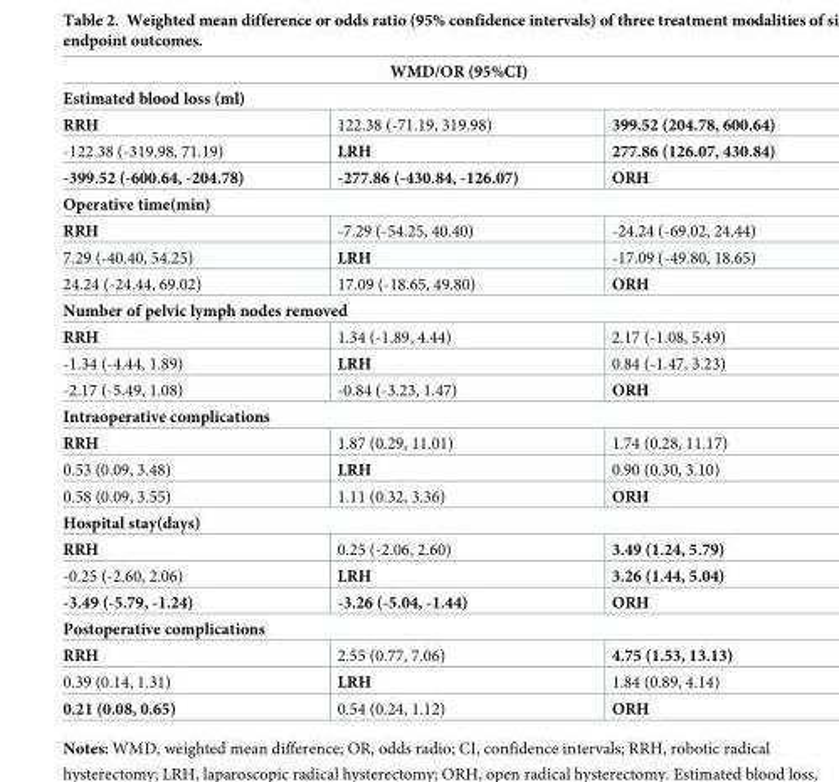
<table><thead><tr><td rowspan="2" colspan="3">WMD/OR (95%CI) Estimated blood loss (ml)</td></tr><tr></tr><tr><td>RRH</td><td>122.38 (-71.19, 319.98)</td><td>399.52 (204.78, 600.64)</td></tr></thead><tbody><tr><td>-122.38 (-319.98, 71.19)</td><td>LRH</td><td>277.86 (126.07, 430.84)</td></tr><tr><td>-399.52 (-600.64, -204.78)</td><td>-277.86 (-430.84, -126.07)</td><td>ORH</td></tr><tr><td colspan="3">Operative time(min)</td></tr><tr><td>RRH</td><td>-7.29 (-54.25, 40.40)</td><td>-24.24 (-69.02, 24.44)</td></tr><tr><td>7.29 (-40.40, 54.25)</td><td>LRH</td><td>-17.09 (-49.80, 18.65)</td></tr><tr><td>24.24 (-24.44, 69.02)</td><td>17.09 (-18.65, 49.80)</td><td>ORH</td></tr><tr><td colspan="3">Number of pelvic lymph nodes removed</td></tr><tr><td>RRH</td><td>1.34 (-1.89, 4.44)</td><td>2.17 (-1.08, 5.49)</td></tr><tr><td>-1.34 (-4.44, 1.89)</td><td>LRH</td><td>0.84 (-1.47, 3.23)</td></tr><tr><td>-2.17 (-5.49, 1.08)</td><td>-0.84 (-3.23, 1.47)</td><td>ORH</td></tr><tr><td colspan="3">Intraoperative complications</td></tr><tr><td>RRH</td><td>1.87 (0.29, 11.01)</td><td>1.74 (0.28, 11.17)</td></tr><tr><td>0.53 (0.09, 3.48)</td><td>LRH</td><td>0.90 (0.30, 3.10)</td></tr><tr><td>0.58 (0.09, 3.55)</td><td>1.11 (0.32, 3.36)</td><td>ORH</td></tr><tr><td colspan="3">Hospital stay(days)</td></tr><tr><td>RRH</td><td>0.25 (-2.06, 2.60)</td><td>3.49 (1.24, 5.79)</td></tr><tr><td>-0.25 (-2.60, 2.06)</td><td>LRH</td><td>3.26 (1.44, 5.04)</td></tr><tr><td>-3.49 (-5.79, -1.24)</td><td>-3.26 (-5.04, -1.44)</td><td>ORH</td></tr><tr><td colspan="3">Postoperative complications</td></tr><tr><td>RRH</td><td>2.55 (0.77, 7.06)</td><td>4.75 (1.53, 13.13)</td></tr><tr><td>0.39 (0.14, 1.31)</td><td>LRH</td><td>1.84 (0.89, 4.14)</td></tr><tr><td>0.21 (0.08, 0.65)</td><td>0.54 (0.24, 1.12)</td><td>ORH</td></tr></tbody></table>